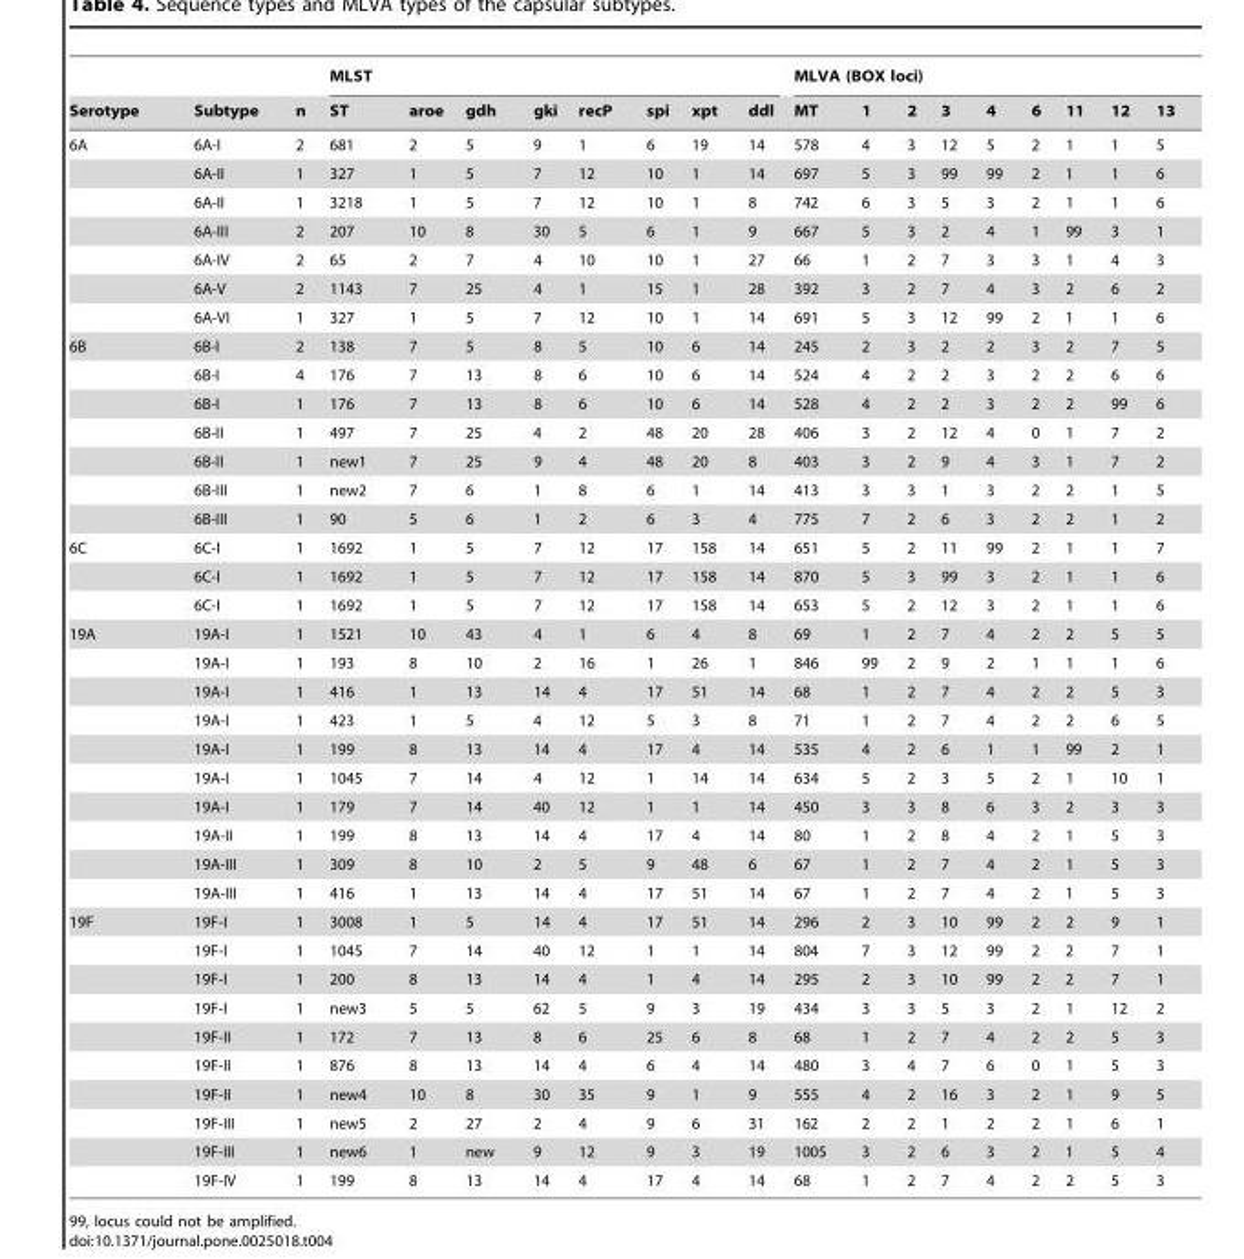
<table><thead><tr><td rowspan="2">Serotype</td><td rowspan="2">Subtype</td><td rowspan="2">n</td><td colspan="8">MLST</td><td colspan="9">MLVA (BOX loci)</td></tr><tr><td>ST</td><td>aroe</td><td>gdh</td><td>gki</td><td>recP</td><td>spi</td><td>xpt</td><td>ddl</td><td>MT</td><td>1</td><td>2</td><td>3</td><td>4</td><td>6</td><td>11</td><td>12</td><td>13</td></tr></thead><tbody><tr><td rowspan="7">6A</td><td>6A-I</td><td>2</td><td>681</td><td>2</td><td>5</td><td>9</td><td>1</td><td>6</td><td>19</td><td>14</td><td>578</td><td>4</td><td>3</td><td>12</td><td>5</td><td>2</td><td>1</td><td>1</td><td>5</td></tr><tr><td>6A-II</td><td>1</td><td>327</td><td>1</td><td>5</td><td>7</td><td>12</td><td>10</td><td>1</td><td>14</td><td>697</td><td>5</td><td>3</td><td>99</td><td>99</td><td>2</td><td>1</td><td>1</td><td>6</td></tr><tr><td>6A-II</td><td>1</td><td>3218</td><td>1</td><td>5</td><td>7</td><td>12</td><td>10</td><td>1</td><td>8</td><td>742</td><td>6</td><td>3</td><td>5</td><td>3</td><td>2</td><td>1</td><td>1</td><td>6</td></tr><tr><td>6A-III</td><td>2</td><td>207</td><td>10</td><td>8</td><td>30</td><td>5</td><td>6</td><td>1</td><td>9</td><td>667</td><td>5</td><td>3</td><td>2</td><td>4</td><td>1</td><td>99</td><td>3</td><td>1</td></tr><tr><td>6A-IV</td><td>2</td><td>65</td><td>2</td><td>7</td><td>4</td><td>10</td><td>10</td><td>1</td><td>27</td><td>66</td><td>1</td><td>2</td><td>7</td><td>3</td><td>3</td><td>1</td><td>4</td><td>3</td></tr><tr><td>6A-V</td><td>2</td><td>1143</td><td>7</td><td>25</td><td>4</td><td>1</td><td>15</td><td>1</td><td>28</td><td>392</td><td>3</td><td>2</td><td>7</td><td>4</td><td>3</td><td>2</td><td>6</td><td>2</td></tr><tr><td>6A-VI</td><td>1</td><td>327</td><td>1</td><td>5</td><td>7</td><td>12</td><td>10</td><td>1</td><td>14</td><td>691</td><td>5</td><td>3</td><td>12</td><td>99</td><td>2</td><td>1</td><td>1</td><td>6</td></tr><tr><td rowspan="7">6B</td><td>6B-I</td><td>2</td><td>138</td><td>7</td><td>5</td><td>8</td><td>5</td><td>10</td><td>6</td><td>14</td><td>245</td><td>2</td><td>3</td><td>2</td><td>2</td><td>3</td><td>2</td><td>7</td><td>5</td></tr><tr><td>6B-I</td><td>4</td><td>176</td><td>7</td><td>13</td><td>8</td><td>6</td><td>10</td><td>6</td><td>14</td><td>524</td><td>4</td><td>2</td><td>2</td><td>3</td><td>2</td><td>2</td><td>6</td><td>6</td></tr><tr><td>6B-I</td><td>1</td><td>176</td><td>7</td><td>13</td><td>8</td><td>6</td><td>10</td><td>6</td><td>14</td><td>528</td><td>4</td><td>2</td><td>2</td><td>3</td><td>2</td><td>2</td><td>99</td><td>6</td></tr><tr><td>6B-II</td><td>1</td><td>497</td><td>7</td><td>25</td><td>4</td><td>2</td><td>48</td><td>20</td><td>28</td><td>406</td><td>3</td><td>2</td><td>12</td><td>4</td><td>0</td><td>1</td><td>7</td><td>2</td></tr><tr><td>6B-II</td><td>1</td><td>new1</td><td>7</td><td>25</td><td>9</td><td>4</td><td>48</td><td>20</td><td>8</td><td>403</td><td>3</td><td>2</td><td>9</td><td>4</td><td>3</td><td>1</td><td>7</td><td>2</td></tr><tr><td>6B-III</td><td>1</td><td>new2</td><td>7</td><td>6</td><td>1</td><td>8</td><td>6</td><td>1</td><td>14</td><td>413</td><td>3</td><td>3</td><td>1</td><td>3</td><td>2</td><td>2</td><td>1</td><td>5</td></tr><tr><td>6B-III</td><td>1</td><td>90</td><td>5</td><td>6</td><td>1</td><td>2</td><td>6</td><td>3</td><td>4</td><td>775</td><td>7</td><td>2</td><td>6</td><td>3</td><td>2</td><td>2</td><td>1</td><td>2</td></tr><tr><td rowspan="3">6C</td><td>6C-I</td><td>1</td><td>1692</td><td>1</td><td>5</td><td>7</td><td>12</td><td>17</td><td>158</td><td>14</td><td>651</td><td>5</td><td>2</td><td>11</td><td>99</td><td>2</td><td>1</td><td>1</td><td>7</td></tr><tr><td>6C-I</td><td>1</td><td>1692</td><td>1</td><td>5</td><td>7</td><td>12</td><td>17</td><td>158</td><td>14</td><td>870</td><td>5</td><td>3</td><td>99</td><td>3</td><td>2</td><td>1</td><td>1</td><td>6</td></tr><tr><td>6C-I</td><td>1</td><td>1692</td><td>1</td><td>5</td><td>7</td><td>12</td><td>17</td><td>158</td><td>14</td><td>653</td><td>5</td><td>2</td><td>12</td><td>3</td><td>2</td><td>1</td><td>1</td><td>6</td></tr><tr><td rowspan="10">19A</td><td>19A-I</td><td>1</td><td>1521</td><td>10</td><td>43</td><td>4</td><td>1</td><td>6</td><td>4</td><td>8</td><td>69</td><td>1</td><td>2</td><td>7</td><td>4</td><td>2</td><td>2</td><td>5</td><td>5</td></tr><tr><td>19A-I</td><td>1</td><td>193</td><td>8</td><td>10</td><td>2</td><td>16</td><td>1</td><td>26</td><td>1</td><td>846</td><td>99</td><td>2</td><td>9</td><td>2</td><td>1</td><td>1</td><td>1</td><td>6</td></tr><tr><td>19A-I</td><td>1</td><td>416</td><td>1</td><td>13</td><td>14</td><td>4</td><td>17</td><td>51</td><td>14</td><td>68</td><td>1</td><td>2</td><td>7</td><td>4</td><td>2</td><td>2</td><td>5</td><td>3</td></tr><tr><td>19A-I</td><td>1</td><td>423</td><td>1</td><td>5</td><td>4</td><td>12</td><td>5</td><td>3</td><td>8</td><td>71</td><td>1</td><td>2</td><td>7</td><td>4</td><td>2</td><td>2</td><td>6</td><td>5</td></tr><tr><td>19A-I</td><td>1</td><td>199</td><td>8</td><td>13</td><td>14</td><td>4</td><td>17</td><td>4</td><td>14</td><td>535</td><td>4</td><td>2</td><td>6</td><td>1</td><td>1</td><td>99</td><td>2</td><td>1</td></tr><tr><td>19A-I</td><td>1</td><td>1045</td><td>7</td><td>14</td><td>4</td><td>12</td><td>1</td><td>14</td><td>14</td><td>634</td><td>5</td><td>2</td><td>3</td><td>5</td><td>2</td><td>1</td><td>10</td><td>1</td></tr><tr><td>19A-I</td><td>1</td><td>179</td><td>7</td><td>14</td><td>40</td><td>12</td><td>1</td><td>1</td><td>14</td><td>450</td><td>3</td><td>3</td><td>8</td><td>6</td><td>3</td><td>2</td><td>3</td><td>3</td></tr><tr><td>19A-II</td><td>1</td><td>199</td><td>8</td><td>13</td><td>14</td><td>4</td><td>17</td><td>4</td><td>14</td><td>80</td><td>1</td><td>2</td><td>8</td><td>4</td><td>2</td><td>1</td><td>5</td><td>3</td></tr><tr><td>19A-III</td><td>1</td><td>309</td><td>8</td><td>10</td><td>2</td><td>5</td><td>9</td><td>48</td><td>6</td><td>67</td><td>1</td><td>2</td><td>7</td><td>4</td><td>2</td><td>1</td><td>5</td><td>3</td></tr><tr><td>19A-III</td><td>1</td><td>416</td><td>1</td><td>13</td><td>14</td><td>4</td><td>17</td><td>51</td><td>14</td><td>67</td><td>1</td><td>2</td><td>7</td><td>4</td><td>2</td><td>1</td><td>5</td><td>3</td></tr><tr><td rowspan="10">19F</td><td>19F-I</td><td>1</td><td>3008</td><td>1</td><td>5</td><td>14</td><td>4</td><td>17</td><td>51</td><td>14</td><td>296</td><td>2</td><td>3</td><td>10</td><td>99</td><td>2</td><td>2</td><td>9</td><td>1</td></tr><tr><td>19F-I</td><td>1</td><td>1045</td><td>7</td><td>14</td><td>40</td><td>12</td><td>1</td><td>1</td><td>14</td><td>804</td><td>7</td><td>3</td><td>12</td><td>99</td><td>2</td><td>2</td><td>7</td><td>1</td></tr><tr><td>19F-I</td><td>1</td><td>200</td><td>8</td><td>13</td><td>14</td><td>4</td><td>1</td><td>4</td><td>14</td><td>295</td><td>2</td><td>3</td><td>10</td><td>99</td><td>2</td><td>2</td><td>7</td><td>1</td></tr><tr><td>19F-I</td><td>1</td><td>new3</td><td>5</td><td>5</td><td>62</td><td>5</td><td>9</td><td>3</td><td>19</td><td>434</td><td>3</td><td>3</td><td>5</td><td>3</td><td>2</td><td>1</td><td>12</td><td>2</td></tr><tr><td>19F-II</td><td>1</td><td>172</td><td>7</td><td>13</td><td>8</td><td>6</td><td>25</td><td>6</td><td>8</td><td>68</td><td>1</td><td>2</td><td>7</td><td>4</td><td>2</td><td>2</td><td>5</td><td>3</td></tr><tr><td>19F-II</td><td>1</td><td>876</td><td>8</td><td>13</td><td>14</td><td>4</td><td>6</td><td>4</td><td>14</td><td>480</td><td>3</td><td>4</td><td>7</td><td>6</td><td>0</td><td>1</td><td>5</td><td>3</td></tr><tr><td>19F-II</td><td>1</td><td>new4</td><td>10</td><td>8</td><td>30</td><td>35</td><td>9</td><td>1</td><td>9</td><td>555</td><td>4</td><td>2</td><td>16</td><td>3</td><td>2</td><td>1</td><td>9</td><td>5</td></tr><tr><td>19F-III</td><td>1</td><td>new5</td><td>2</td><td>27</td><td>2</td><td>4</td><td>9</td><td>6</td><td>31</td><td>162</td><td>2</td><td>2</td><td>1</td><td>2</td><td>2</td><td>1</td><td>6</td><td>1</td></tr><tr><td>19F-III</td><td>1</td><td>new6</td><td>1</td><td>new</td><td>9</td><td>12</td><td>9</td><td>3</td><td>19</td><td>1005</td><td>3</td><td>2</td><td>6</td><td>3</td><td>2</td><td>1</td><td>5</td><td>4</td></tr><tr><td>19F-IV</td><td>1</td><td>199</td><td>8</td><td>13</td><td>14</td><td>4</td><td>17</td><td>4</td><td>14</td><td>68</td><td>1</td><td>2</td><td>7</td><td>4</td><td>2</td><td>2</td><td>5</td><td>3</td></tr></tbody></table>